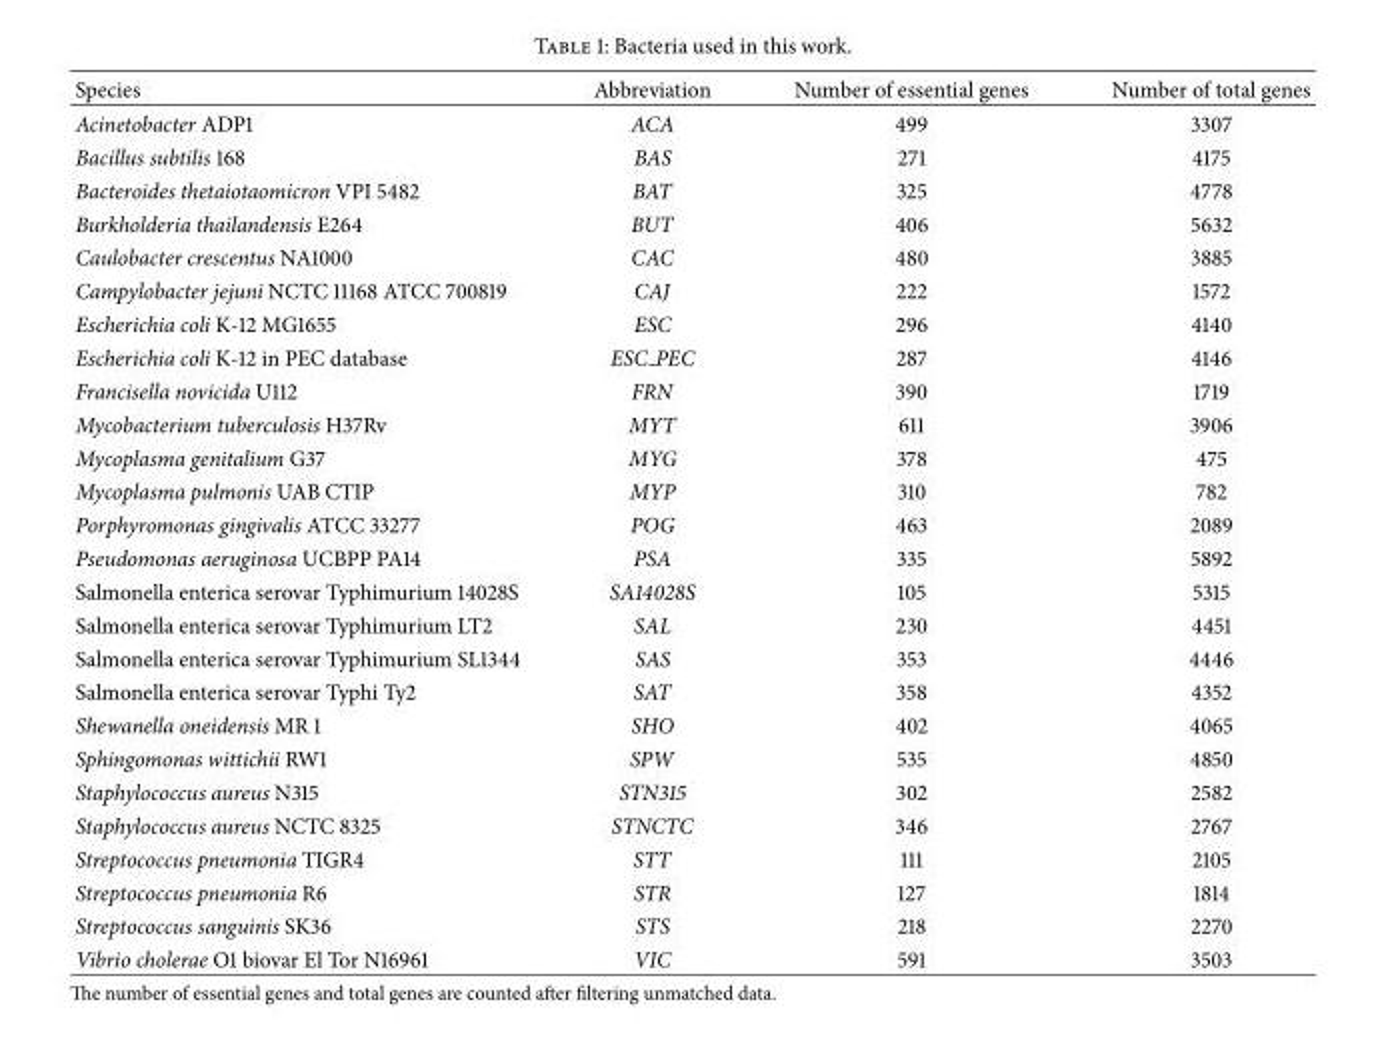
<table><thead><tr><td>Species</td><td>Abbreviation</td><td>Number of essential genes</td><td>Number of total genes</td></tr></thead><tbody><tr><td>Acinetobacter ADP1</td><td>ACA</td><td>499</td><td>3307</td></tr><tr><td>Bacillus subtilis 168</td><td>BAS</td><td>271</td><td>4175</td></tr><tr><td>Bacteroides thetaiotaomicron VPI 5482</td><td>BAT</td><td>325</td><td>4778</td></tr><tr><td>Burkholderia thailandensis E264</td><td>BUT</td><td>406</td><td>5632</td></tr><tr><td>Caulobacter crescentus NA1000</td><td>CAC</td><td>480</td><td>3885</td></tr><tr><td>Campylobacter jejuni NCTC 11168 ATCC 700819</td><td>CAJ</td><td>222</td><td>1572</td></tr><tr><td>Escherichia coli K-12 MG1655</td><td>ESC</td><td>296</td><td>4140</td></tr><tr><td>Escherichia coli K-12 in PEC database</td><td>ESC PEC</td><td>287</td><td>4146</td></tr><tr><td>Francisella novicida U112</td><td>FRN</td><td>390</td><td>1719</td></tr><tr><td>Mycobacterium tuberculosis H37Rv</td><td>MYT</td><td>611</td><td>3906</td></tr><tr><td>Mycoplasma genitalium G37</td><td>MYG</td><td>378</td><td>475</td></tr><tr><td>Mycoplasma pulmonis UAB CTIP</td><td>MYP</td><td>310</td><td>782</td></tr><tr><td>Porphyromonas gingivalis ATCC 33277</td><td>POG</td><td>463</td><td>2089</td></tr><tr><td>Pseudomonas aeruginosa UCBPP PA14</td><td>PSA</td><td>335</td><td>5892</td></tr><tr><td>Salmonella enterica serovar Typhimurium 14028S</td><td>SA14028S</td><td>105</td><td>5315</td></tr><tr><td>Salmonella enterica serovar Typhimurium LT2</td><td>SAL</td><td>230</td><td>4451</td></tr><tr><td>Salmonella enterica serovar Typhimurium SL1344</td><td>SAS</td><td>353</td><td>4446</td></tr><tr><td>Salmonella enterica serovar Typhi Ty2</td><td>SAT</td><td>358</td><td>4352</td></tr><tr><td>Shewanella oneidensis MR 1</td><td>SHO</td><td>402</td><td>4065</td></tr><tr><td>Sphingomonas wittichii RW1</td><td>SPW</td><td>535</td><td>4850</td></tr><tr><td>Staphylococcus aureus N315</td><td>STN315</td><td>302</td><td>2582</td></tr><tr><td>Staphylococcus aureus NCTC 8325</td><td>STNCTC</td><td>346</td><td>2767</td></tr><tr><td>Streptococcus pneumonia TIGR4</td><td>STT</td><td>111</td><td>2105</td></tr><tr><td>Streptococcus pneumonia R6</td><td>STR</td><td>127</td><td>1814</td></tr><tr><td>Streptococcus sanguinis SK36</td><td>STS</td><td>218</td><td>2270</td></tr><tr><td>Vibrio cholerae O1 biovar El Tor N16961</td><td>VIC</td><td>591</td><td>3503</td></tr></tbody></table>